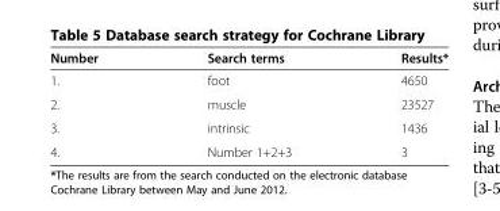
<table><thead><tr><td>Number</td><td>Search terms</td><td>Results*</td></tr></thead><tbody><tr><td>1.</td><td>foot</td><td>4650</td></tr><tr><td>2.</td><td>muscle</td><td>23527</td></tr><tr><td>3.</td><td>intrinsic</td><td>1436</td></tr><tr><td>4.</td><td>Number 1+2+3</td><td>3</td></tr></tbody></table>